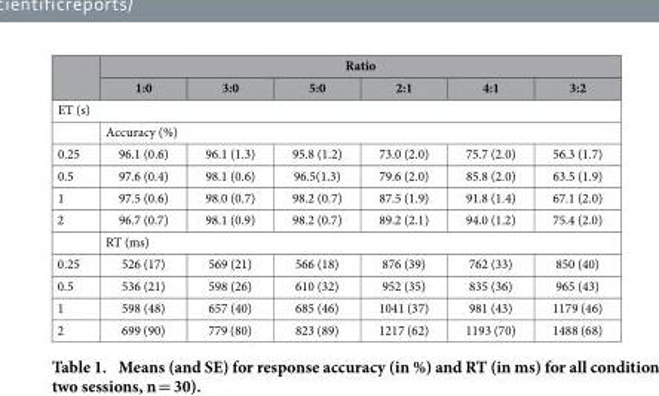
<table><thead><tr><td rowspan="2"></td><td colspan="6">Ratio</td></tr><tr><td>1:0</td><td>3:0</td><td>5:0</td><td>2:1</td><td>4:1</td><td>3:2</td></tr></thead><tbody><tr><td colspan="7">ET (s)</td></tr><tr><td></td><td colspan="6">Accuracy (%)</td></tr><tr><td>0.25</td><td>96.1 (0.6)</td><td>96.1 (1.3)</td><td>95.8 (1.2)</td><td>73.0 (2.0)</td><td>75.7 (2.0)</td><td>56.3 (1.7)</td></tr><tr><td>0.5</td><td>97.6 (0.4)</td><td>98.1 (0.6)</td><td>96.5(1.3)</td><td>79.6 (2.0)</td><td>85.8 (2.0)</td><td>63.5 (1.9)</td></tr><tr><td>1</td><td>97.5 (0.6)</td><td>98.0 (0.7)</td><td>98.2 (0.7)</td><td>87.5 (1.9)</td><td>91.8 (1.4)</td><td>67.1 (2.0)</td></tr><tr><td rowspan="2">2</td><td>96.7 (0.7)</td><td>98.1 (0.9)</td><td>98.2 (0.7)</td><td>89.2 (2.1)</td><td>94.0 (1.2)</td><td>75.4 (2.0)</td></tr><tr><td colspan="6">RT (ms)</td></tr><tr><td>0.25</td><td>526 (17)</td><td>569 (21)</td><td>566 (18)</td><td>876 (39)</td><td>762 (33)</td><td>850 (40)</td></tr><tr><td>0.5</td><td>536 (21)</td><td>598 (26)</td><td>610 (32)</td><td>952 (35)</td><td>835 (36)</td><td>965 (43)</td></tr><tr><td>1</td><td>598 (48)</td><td>657 (40)</td><td>685 (46)</td><td>1041 (37)</td><td>981 (43)</td><td>1179 (46)</td></tr><tr><td>2</td><td>699 (90)</td><td>779 (80)</td><td>823 (89)</td><td>1217 (62)</td><td>1193 (70)</td><td>1488 (68)</td></tr></tbody></table>